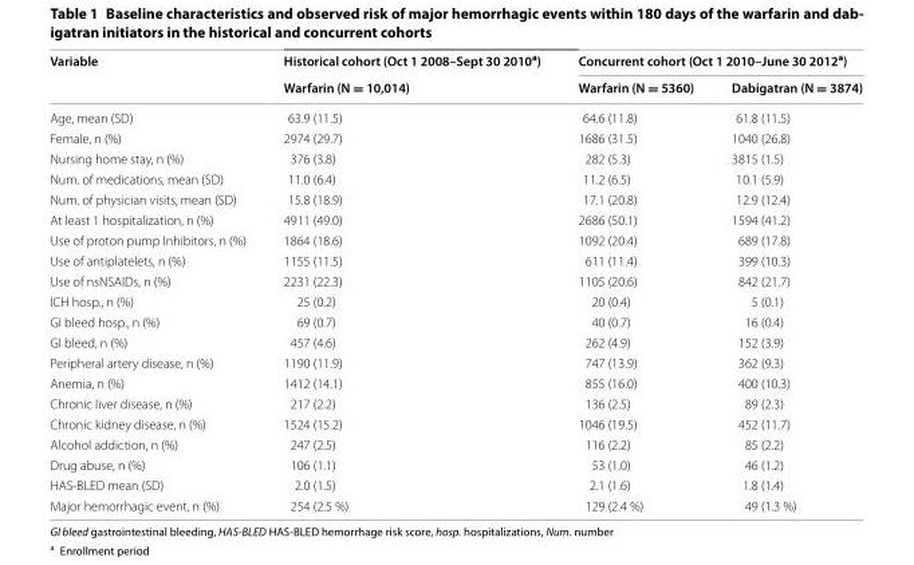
<table><thead><tr><td rowspan="2">Variable</td><td rowspan="2">Historical cohort (Oct 1 2008–Sept 30 2010<sup>a</sup>) Warfarin (N = 10,014)</td><td colspan="2">Concurrent cohort (Oct 1 2010–June 30 2012<sup>a</sup>)</td></tr><tr><td>Warfarin (N = 5360)</td><td>Dabigatran (N = 3874)</td></tr></thead><tbody><tr><td>Age, mean (SD)</td><td>63.9 (11.5)</td><td>64.6 (11.8)</td><td>61.8 (11.5)</td></tr><tr><td>Female, n (%)</td><td>2974 (29.7)</td><td>1686 (31.5)</td><td>1040 (26.8)</td></tr><tr><td>Nursing home stay, n (%)</td><td>376 (3.8)</td><td>282 (5.3)</td><td>3815 (1.5)</td></tr><tr><td>Num. of medications, mean (SD)</td><td>11.0 (6.4)</td><td>11.2 (6.5)</td><td>10.1 (5.9)</td></tr><tr><td>Num. of physician visits, mean (SD)</td><td>15.8 (18.9)</td><td>17.1 (20.8)</td><td>12.9 (12.4)</td></tr><tr><td>At least 1 hospitalization, n (%)</td><td>4911 (49.0)</td><td>2686 (50.1)</td><td>1594 (41.2)</td></tr><tr><td>Use of proton pump Inhibitors, n (%)</td><td>1864 (18.6)</td><td>1092 (20.4)</td><td>689 (17.8)</td></tr><tr><td>Use of antiplatelets, n (%)</td><td>1155 (11.5)</td><td>611 (11.4)</td><td>399 (10.3)</td></tr><tr><td>Use of nsNSAIDs, n (%)</td><td>2231 (22.3)</td><td>1105 (20.6)</td><td>842 (21.7)</td></tr><tr><td>ICH hosp., n (%)</td><td>25 (0.2)</td><td>20 (0.4)</td><td>5 (0.1)</td></tr><tr><td>GI bleed hosp., n (%)</td><td>69 (0.7)</td><td>40 (0.7)</td><td>16 (0.4)</td></tr><tr><td>GI bleed, n (%)</td><td>457 (4.6)</td><td>262 (4.9)</td><td>152 (3.9)</td></tr><tr><td>Peripheral artery disease, n (%)</td><td>1190 (11.9)</td><td>747 (13.9)</td><td>362 (9.3)</td></tr><tr><td>Anemia, n (%)</td><td>1412 (14.1)</td><td>855 (16.0)</td><td>400 (10.3)</td></tr><tr><td>Chronic liver disease, n (%)</td><td>217 (2.2)</td><td>136 (2.5)</td><td>89 (2.3)</td></tr><tr><td>Chronic kidney disease, n (%)</td><td>1524 (15.2)</td><td>1046 (19.5)</td><td>452 (11.7)</td></tr><tr><td>Alcohol addiction, n (%)</td><td>247 (2.5)</td><td>116 (2.2)</td><td>85 (2.2)</td></tr><tr><td>Drug abuse, n (%)</td><td>106 (1.1)</td><td>53 (1.0)</td><td>46 (1.2)</td></tr><tr><td>HAS-BLED mean (SD)</td><td>2.0 (1.5)</td><td>2.1 (1.6)</td><td>1.8 (1.4)</td></tr><tr><td>Major hemorrhagic event, n (%)</td><td>254 (2.5 %)</td><td>129 (2.4 %)</td><td>49 (1.3 %)</td></tr></tbody></table>